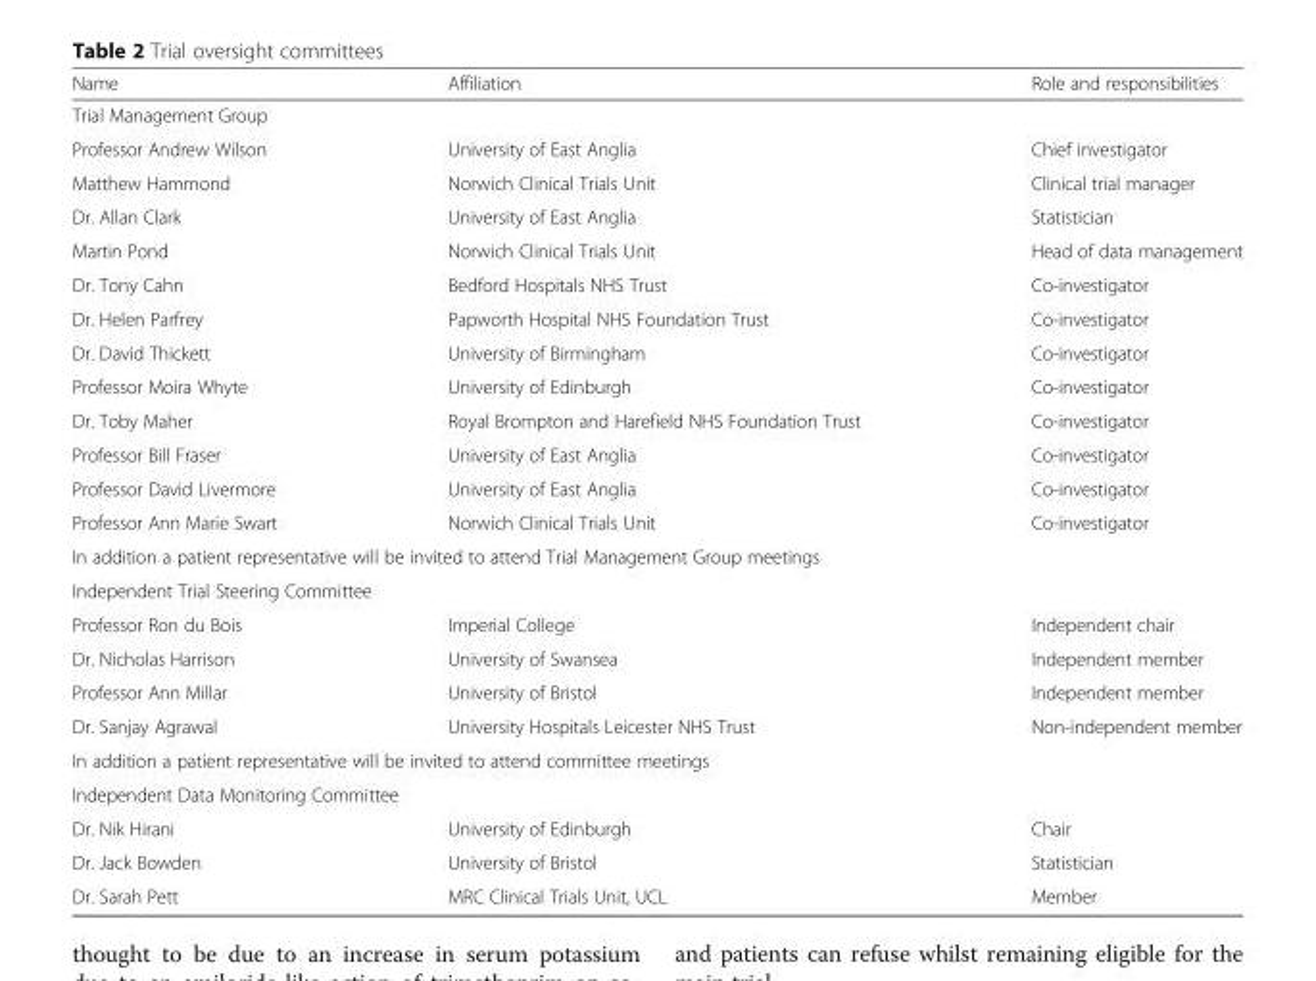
<table><thead><tr><td>Name</td><td>Affiliation</td><td>Role and responsibilities</td></tr></thead><tbody><tr><td colspan="3">Trial Management Group</td></tr><tr><td>Professor Andrew Wilson</td><td>University of East Anglia</td><td>Chief investigator</td></tr><tr><td>Matthew Hammond</td><td>Norwich Clinical Trials Unit</td><td>Clinical trial manager</td></tr><tr><td>Dr. Allan Clark</td><td>University of East Anglia</td><td>Statistician</td></tr><tr><td>Martin Pond</td><td>Norwich Clinical Trials Unit</td><td>Head of data management</td></tr><tr><td>Dr. Tony Cahn</td><td>Bedford Hospitals NHS Trust</td><td>Co-investigator</td></tr><tr><td>Dr. Helen Parfrey</td><td>Papworth Hospital NHS Foundation Trust</td><td>Co-investigator</td></tr><tr><td>Dr. David Thickett</td><td>University of Birmingham</td><td>Co-investigator</td></tr><tr><td>Professor Moira Whyte</td><td>University of Edinburgh</td><td>Co-investigator</td></tr><tr><td>Dr. Toby Maher</td><td>Royal Brompton and Harefield NHS Foundation Trust</td><td>Co-investigator</td></tr><tr><td>Professor Bill Fraser</td><td>University of East Anglia</td><td>Co-investigator</td></tr><tr><td>Professor David Livermore</td><td>University of East Anglia</td><td>Co-investigator</td></tr><tr><td>Professor Ann Marie Swart</td><td>Norwich Clinical Trials Unit</td><td>Co-investigator</td></tr><tr><td colspan="3">In addition a patient representative will be invited to attend Trial Management Group meetings</td></tr><tr><td colspan="3">Independent Trial Steering Committee</td></tr><tr><td>Professor Ron du Bois</td><td>Imperial College</td><td>Independent chair</td></tr><tr><td>Dr. Nicholas Harrison</td><td>University of Swansea</td><td>Independent member</td></tr><tr><td>Professor Ann Millar</td><td>University of Bristol</td><td>Independent member</td></tr><tr><td>Dr. Sanjay Agrawal</td><td>University Hospitals Leicester NHS Trust</td><td>Non-independent member</td></tr><tr><td colspan="3">In addition a patient representative will be invited to attend committee meetings</td></tr><tr><td colspan="3">Independent Data Monitoring Committee</td></tr><tr><td>Dr. Nik Hirani</td><td>University of Edinburgh</td><td>Chair</td></tr><tr><td>Dr. Jack Bowden</td><td>University of Bristol</td><td>Statistician</td></tr><tr><td>Dr. Sarah Pett</td><td>MRC Clinical Trials Unit, UCL</td><td>Member</td></tr></tbody></table>